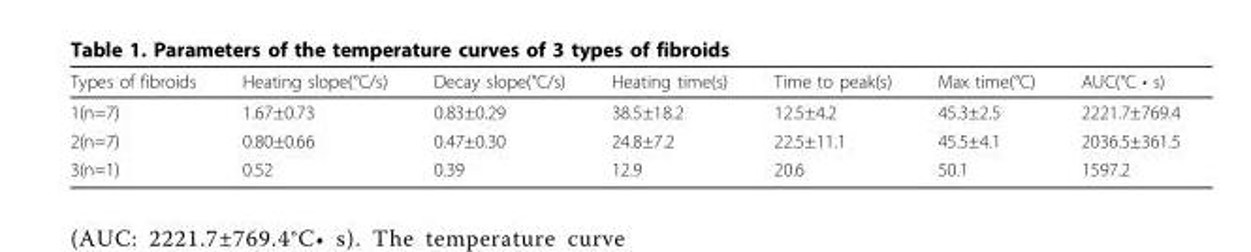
<table><thead><tr><td>Types of fibroids</td><td>Heating slope(°C/s)</td><td>Decay slope(°C/s)</td><td>Heating time(s)</td><td>Time to peak(s)</td><td>Max time(°C)</td><td>AUC(°C • s)</td></tr></thead><tbody><tr><td>1(n=7)</td><td>1.67±0.73</td><td>0.83±0.29</td><td>38.5±18.2</td><td>12.5±4.2</td><td>45.3±2.5</td><td>2221.7±769.4</td></tr><tr><td>2(n=7)</td><td>0.80±0.66</td><td>0.47±0.30</td><td>24.8±7.2</td><td>22.5±11.1</td><td>45.5±4.1</td><td>2036.5±361.5</td></tr><tr><td>3(n=1)</td><td>0.52</td><td>0.39</td><td>12.9</td><td>20.6</td><td>50.1</td><td>1597.2</td></tr></tbody></table>